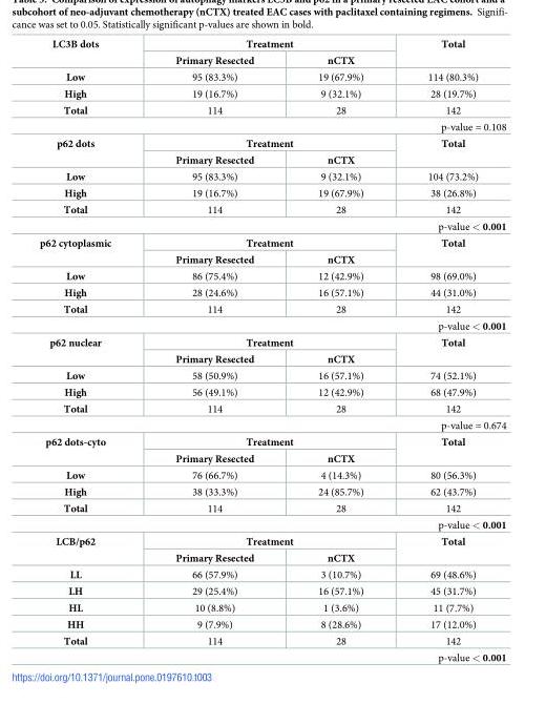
<table><tbody><tr><td rowspan="2">LC3B dots</td><td colspan="2">Treatment</td><td rowspan="2">Total</td></tr><tr><td>Primary Resected</td><td>nCTX</td></tr><tr><td>Low</td><td>95 (83.3%)</td><td>19 (67.9%)</td><td>114 (80.3%)</td></tr><tr><td>High</td><td>19 (16.7%)</td><td>9 (32.1%)</td><td>28 (19.7%)</td></tr><tr><td>Total</td><td>114</td><td>28</td><td>142</td></tr><tr><td colspan="4">p-value = 0.108</td></tr><tr><td rowspan="2">p62 dots</td><td colspan="2">Treatment</td><td rowspan="2">Total</td></tr><tr><td>Primary Resected</td><td>nCTX</td></tr><tr><td>Low</td><td>95 (83.3%)</td><td>9 (32.1%)</td><td>104 (73.2%)</td></tr><tr><td>High</td><td>19 (16.7%)</td><td>19 (67.9%)</td><td>38 (26.8%)</td></tr><tr><td>Total</td><td>114</td><td>28</td><td>142</td></tr><tr><td colspan="4">p-value &lt; 0.001</td></tr><tr><td rowspan="2">p62 cytoplasmic</td><td colspan="2">Treatment</td><td rowspan="2">Total</td></tr><tr><td>Primary Resected</td><td>nCTX</td></tr><tr><td>Low</td><td>86 (75.4%)</td><td>12 (42.9%)</td><td>98 (69.0%)</td></tr><tr><td>High</td><td>28 (24.6%)</td><td>16 (57.1%)</td><td>44 (31.0%)</td></tr><tr><td>Total</td><td>114</td><td>28</td><td>142</td></tr><tr><td colspan="4">p-value &lt; 0.001</td></tr><tr><td rowspan="2">p62 nuclear</td><td colspan="2">Treatment</td><td rowspan="2">Total</td></tr><tr><td>Primary Resected</td><td>nCTX</td></tr><tr><td>Low</td><td>58 (50.9%)</td><td>16 (57.1%)</td><td>74 (52.1%)</td></tr><tr><td>High</td><td>56 (49.1%)</td><td>12 (42.9%)</td><td>68 (47.9%)</td></tr><tr><td>Total</td><td>114</td><td>28</td><td>142</td></tr><tr><td colspan="4">p-value = 0.674</td></tr><tr><td rowspan="2">p62 dots-cyto</td><td colspan="2">Treatment</td><td rowspan="2">Total</td></tr><tr><td>Primary Resected</td><td>nCTX</td></tr><tr><td>Low</td><td>76 (66.7%)</td><td>4 (14.3%)</td><td>80 (56.3%)</td></tr><tr><td>High</td><td>38 (33.3%)</td><td>24 (85.7%)</td><td>62 (43.7%)</td></tr><tr><td>Total</td><td>114</td><td>28</td><td>142</td></tr><tr><td colspan="4">p-value &lt; 0.001</td></tr><tr><td rowspan="2">LCB/p62</td><td colspan="2">Treatment</td><td rowspan="2">Total</td></tr><tr><td>Primary Resected</td><td>nCTX</td></tr><tr><td>LL</td><td>66 (57.9%)</td><td>3 (10.7%)</td><td>69 (48.6%)</td></tr><tr><td>LH</td><td>29 (25.4%)</td><td>16 (57.1%)</td><td>45 (31.7%)</td></tr><tr><td>HL</td><td>10 (8.8%)</td><td>1 (3.6%)</td><td>11 (7.7%)</td></tr><tr><td>HH</td><td>9 (7.9%)</td><td>8 (28.6%)</td><td>17 (12.0%)</td></tr><tr><td>Total</td><td>114</td><td>28</td><td>142</td></tr><tr><td colspan="4">p-value &lt; 0.001</td></tr></tbody></table>